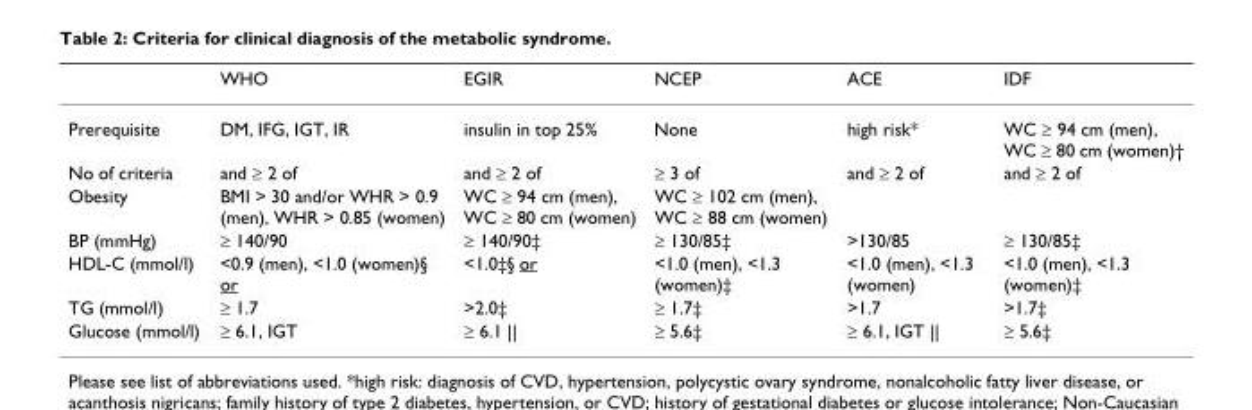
<table><thead><tr><td></td><td>WHO</td><td>EGIR</td><td>NCEP</td><td>ACE</td><td>IDF</td></tr></thead><tbody><tr><td>Prerequisite</td><td>DM, IFG, IGT, IR</td><td>insulin in top 25%</td><td>None</td><td>high risk*</td><td>WC ≥ 94 cm (men), WC ≥ 80 cm (women)†</td></tr><tr><td>No of criteria</td><td>and ≥ 2 of</td><td>and ≥ 2 of</td><td>≥ 3 of</td><td>and ≥ 2 of</td><td>and ≥ 2 of</td></tr><tr><td>Obesity</td><td>BMI &gt; 30 and/or WHR &gt; 0.9 (men), WHR &gt; 0.85 (women)</td><td>WC ≥ 94 cm (men), WC ≥ 80 cm (women)</td><td>WC ≥ 102 cm (men), WC ≥ 88 cm (women)</td><td></td><td></td></tr><tr><td>BP (mmHg)</td><td>≥ 140/90</td><td>≥ 140/90‡</td><td>≥ 130/85‡</td><td>&gt;130/85</td><td>≥ 130/85‡</td></tr><tr><td>HDL-C (mmol/l)</td><td>&lt;0.9 (men), &lt;1.0 (women)§ or</td><td>&lt;1.0‡§ or</td><td>&lt;1.0 (men), &lt;1.3 (women)‡</td><td>&lt;1.0 (men), &lt;1.3 (women)</td><td>&lt;1.0 (men), &lt;1.3 (women)‡</td></tr><tr><td>TG (mmol/l)</td><td>≥ 1.7</td><td>&gt;2.0‡</td><td>≥ 1.7‡</td><td>&gt;1.7</td><td>&gt;1.7‡</td></tr><tr><td>Glucose (mmol/l)</td><td>≥ 6.1, IGT</td><td>≥ 6.1 ||</td><td>≥ 5.6‡</td><td>≥ 6.1, IGT ||</td><td>≥ 5.6‡</td></tr></tbody></table>